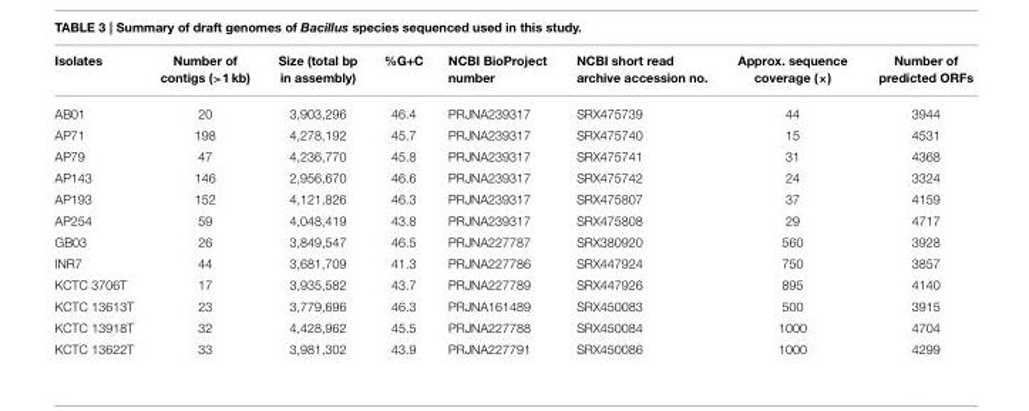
<table><thead><tr><td>Isolates</td><td>Number of contigs (&gt;1 kb)</td><td>Size (total bp in assembly)</td><td>%G+C</td><td>NCBI BioProject number</td><td>NCBI short read archive accession no.</td><td>Approx. sequence coverage (×)</td><td>Number of predicted ORFs</td></tr></thead><tbody><tr><td>AB01</td><td>20</td><td>3,903,296</td><td>46.4</td><td>PRJNA239317</td><td>SRX475739</td><td>44</td><td>3944</td></tr><tr><td>AP71</td><td>198</td><td>4,278,192</td><td>45.7</td><td>PRJNA239317</td><td>SRX475740</td><td>15</td><td>4531</td></tr><tr><td>AP79</td><td>47</td><td>4,236,770</td><td>45.8</td><td>PRJNA239317</td><td>SRX475741</td><td>31</td><td>4368</td></tr><tr><td>AP143</td><td>146</td><td>2,956,670</td><td>46.6</td><td>PRJNA239317</td><td>SRX475742</td><td>24</td><td>3324</td></tr><tr><td>AP193</td><td>152</td><td>4,121,826</td><td>46.3</td><td>PRJNA239317</td><td>SRX475807</td><td>37</td><td>4159</td></tr><tr><td>AP254</td><td>59</td><td>4,048,419</td><td>43.8</td><td>PRJNA239317</td><td>SRX475808</td><td>29</td><td>4717</td></tr><tr><td>GB03</td><td>26</td><td>3,849,547</td><td>46.5</td><td>PRJNA227787</td><td>SRX380920</td><td>560</td><td>3928</td></tr><tr><td>INR7</td><td>44</td><td>3,681,709</td><td>41.3</td><td>PRJNA227786</td><td>SRX447924</td><td>750</td><td>3857</td></tr><tr><td>KCTC 3706T</td><td>17</td><td>3,935,582</td><td>43.7</td><td>PRJNA227789</td><td>SRX447926</td><td>895</td><td>4140</td></tr><tr><td>KCTC 13613T</td><td>23</td><td>3,779,696</td><td>46.3</td><td>PRJNA161489</td><td>SRX450083</td><td>500</td><td>3915</td></tr><tr><td>KCTC 13918T</td><td>32</td><td>4,428,962</td><td>45.5</td><td>PRJNA227788</td><td>SRX450084</td><td>1000</td><td>4704</td></tr><tr><td>KCTC 13622T</td><td>33</td><td>3,981,302</td><td>43.9</td><td>PRJNA227791</td><td>SRX450086</td><td>1000</td><td>4299</td></tr></tbody></table>